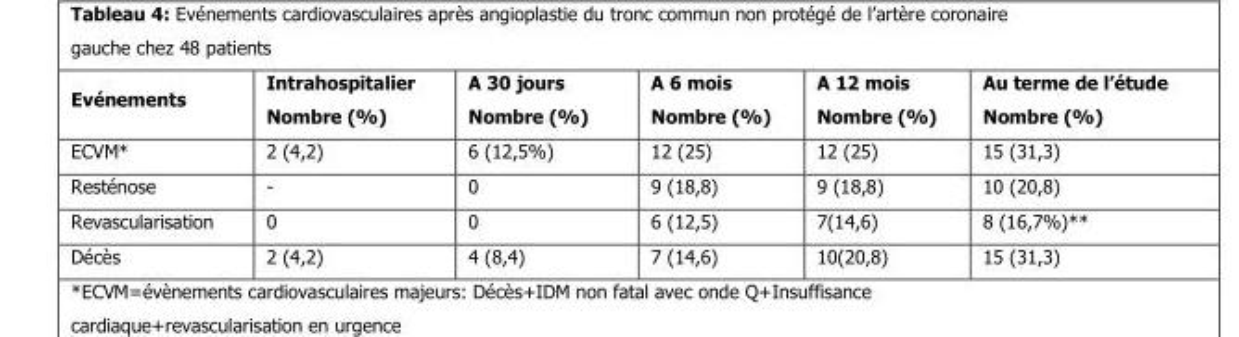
<table><thead><tr><td>Evénements</td><td>Intrahospitalier Nombre (%)</td><td>A 30 jours Nombre (%)</td><td>A 6 mois Nombre (%)</td><td>A 12 mois Nombre (%)</td><td>Au terme de l’étude Nombre (%)</td></tr></thead><tbody><tr><td>ECVM*</td><td>2 (4,2)</td><td>6 (12,5%)</td><td>12 (25)</td><td>12 (25)</td><td>15 (31,3)</td></tr><tr><td>Resténose</td><td>-</td><td>0</td><td>9 (18,8)</td><td>9 (18,8)</td><td>10 (20,8)</td></tr><tr><td>Revascularisation</td><td>0</td><td>0</td><td>6 (12,5)</td><td>7(14,6)</td><td>8 (16,7%)**</td></tr><tr><td>Décès</td><td>2 (4,2)</td><td>4 (8,4)</td><td>7 (14,6)</td><td>10(20,8)</td><td>15 (31,3)</td></tr></tbody></table>